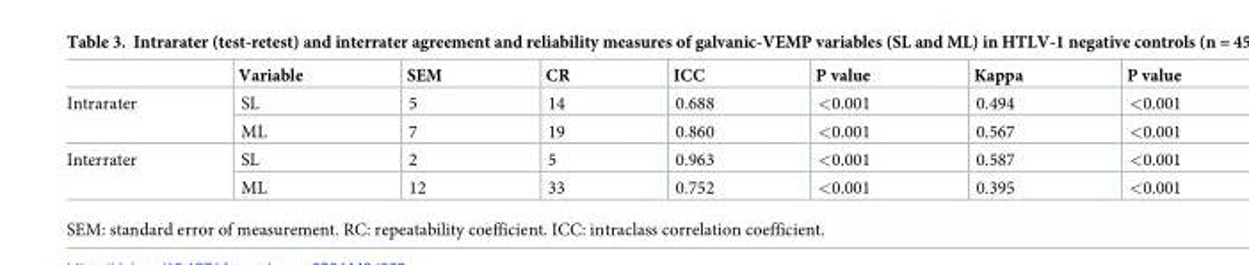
<table><thead><tr><td></td><td>Variable</td><td>SEM</td><td>CR</td><td>ICC</td><td>P value</td><td>Kappa</td><td>P value</td></tr></thead><tbody><tr><td rowspan="2">Intrarater</td><td>SL</td><td>5</td><td>14</td><td>0.688</td><td>&lt;0.001</td><td>0.494</td><td>&lt;0.001</td></tr><tr><td>ML</td><td>7</td><td>19</td><td>0.860</td><td>&lt;0.001</td><td>0.567</td><td>&lt;0.001</td></tr><tr><td rowspan="2">Interrater</td><td>SL</td><td>2</td><td>5</td><td>0.963</td><td>&lt;0.001</td><td>0.587</td><td>&lt;0.001</td></tr><tr><td>ML</td><td>12</td><td>33</td><td>0.752</td><td>&lt;0.001</td><td>0.395</td><td>&lt;0.001</td></tr></tbody></table>